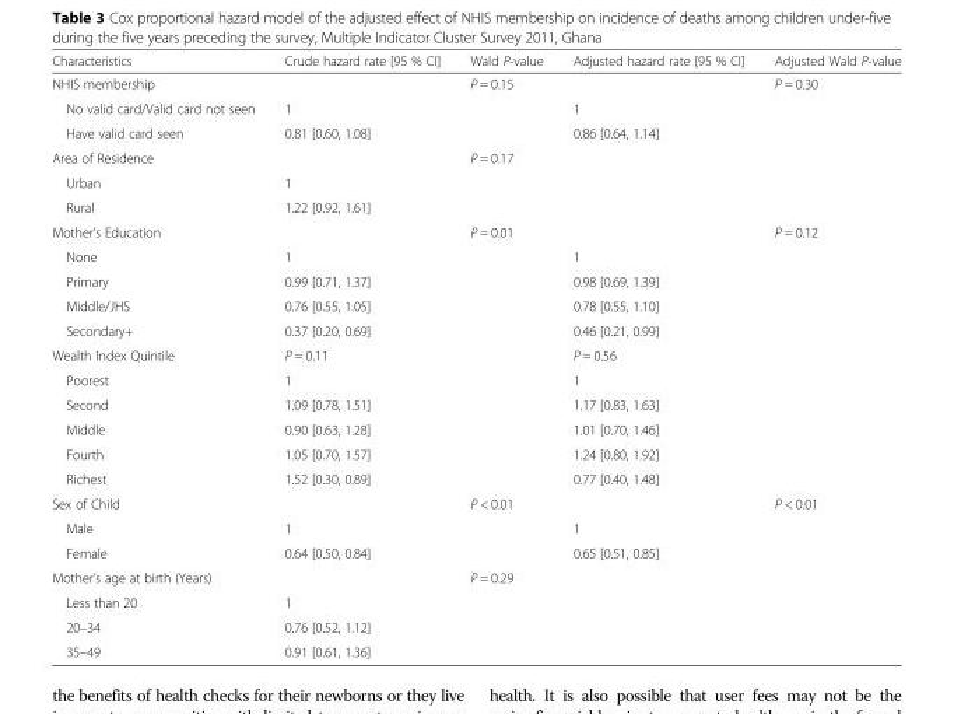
<table><thead><tr><td>Characteristics</td><td>Crude hazard rate [95 % CI]</td><td>Wald P-value</td><td>Adjusted hazard rate [95 % CI]</td><td>Adjusted Wald P-value</td></tr></thead><tbody><tr><td>NHIS membership</td><td></td><td>P = 0.15</td><td></td><td>P = 0.30</td></tr><tr><td>No valid card/Valid card not seen</td><td>1</td><td></td><td>1</td><td></td></tr><tr><td>Have valid card seen</td><td>0.81 [0.60, 1.08]</td><td></td><td>0.86 [0.64, 1.14]</td><td></td></tr><tr><td>Area of Residence</td><td></td><td>P = 0.17</td><td></td><td></td></tr><tr><td>Urban</td><td>1</td><td></td><td></td><td></td></tr><tr><td>Rural</td><td>1.22 [0.92, 1.61]</td><td></td><td></td><td></td></tr><tr><td>Mother’s Education</td><td></td><td>P = 0.01</td><td></td><td>P = 0.12</td></tr><tr><td>None</td><td>1</td><td></td><td>1</td><td></td></tr><tr><td>Primary</td><td>0.99 [0.71, 1.37]</td><td></td><td>0.98 [0.69, 1.39]</td><td></td></tr><tr><td>Middle/JHS</td><td>0.76 [0.55, 1.05]</td><td></td><td>0.78 [0.55, 1.10]</td><td></td></tr><tr><td>Secondary+</td><td>0.37 [0.20, 0.69]</td><td></td><td>0.46 [0.21, 0.99]</td><td></td></tr><tr><td>Wealth Index Quintile</td><td>P = 0.11</td><td></td><td>P = 0.56</td><td></td></tr><tr><td>Poorest</td><td>1</td><td></td><td>1</td><td></td></tr><tr><td>Second</td><td>1.09 [0.78, 1.51]</td><td></td><td>1.17 [0.83, 1.63]</td><td></td></tr><tr><td>Middle</td><td>0.90 [0.63, 1.28]</td><td></td><td>1.01 [0.70, 1.46]</td><td></td></tr><tr><td>Fourth</td><td>1.05 [0.70, 1.57]</td><td></td><td>1.24 [0.80, 1.92]</td><td></td></tr><tr><td>Richest</td><td>1.52 [0.30, 0.89]</td><td></td><td>0.77 [0.40, 1.48]</td><td></td></tr><tr><td>Sex of Child</td><td></td><td>P &lt; 0.01</td><td></td><td>P &lt; 0.01</td></tr><tr><td>Male</td><td>1</td><td></td><td>1</td><td></td></tr><tr><td>Female</td><td>0.64 [0.50, 0.84]</td><td></td><td>0.65 [0.51, 0.85]</td><td></td></tr><tr><td>Mother’s age at birth (Years)</td><td></td><td>P = 0.29</td><td></td><td></td></tr><tr><td>Less than 20</td><td>1</td><td></td><td></td><td></td></tr><tr><td>20–34</td><td>0.76 [0.52, 1.12]</td><td></td><td></td><td></td></tr><tr><td>35–49</td><td>0.91 [0.61, 1.36]</td><td></td><td></td><td></td></tr></tbody></table>